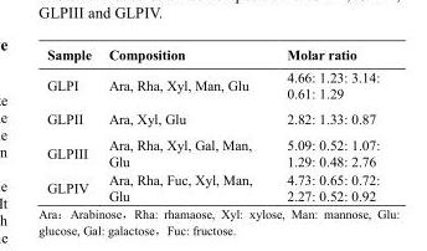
<table><thead><tr><td>Sample</td><td>Composition</td><td>Molar ratio</td></tr></thead><tbody><tr><td>GLPI</td><td>Ara, Rha, Xyl, Man, Glu</td><td>4.66: 1.23: 3.14: 0.61: 1.29</td></tr><tr><td>GLPII</td><td>Ara, Xyl, Glu</td><td>2.82: 1.33: 0.87</td></tr><tr><td>GLPIII</td><td>Ara, Rha, Xyl, Gal, Man, Glu</td><td>5.09: 0.52: 1.07: 1.29: 0.48: 2.76</td></tr><tr><td>GLPIV</td><td>Ara, Rha, Fuc, Xyl, Man, Glu</td><td>4.73: 0.65: 0.72: 2.27: 0.52: 0.92</td></tr></tbody></table>